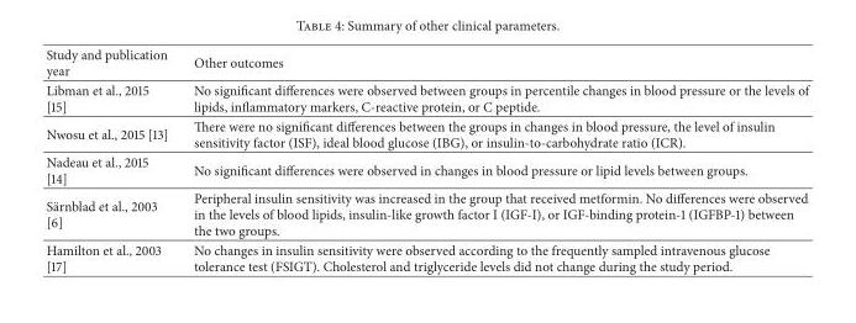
<table><thead><tr><td>Study and publication year</td><td>Other outcomes</td></tr></thead><tbody><tr><td>Libman et al., 2015 [15]</td><td>No significant differences were observed between groups in percentile changes in blood pressure or the levels of lipids, inflammatory markers, C-reactive protein, or C peptide.</td></tr><tr><td>Nwosu et al., 2015 [13]</td><td>There were no significant differences between the groups in changes in blood pressure, the level of insulin sensitivity factor (ISF), ideal blood glucose (IBG), or insulin-to-carbohydrate ratio (ICR).</td></tr><tr><td>Nadeau et al., 2015 [14]</td><td>No significant differences were observed in changes in blood pressure or lipid levels between groups.</td></tr><tr><td>S¨arnblad et al., 2003 [6]</td><td>Peripheral insulin sensitivity was increased in the group that received metformin. No differences were observed in the levels of blood lipids, insulin-like growth factor I (IGF-I), or IGF-binding protein-1 (IGFBP-1) between the two groups.</td></tr><tr><td>Hamilton et al., 2003 [17]</td><td>No changes in insulin sensitivity were observed according to the frequently sampled intravenous glucose tolerance test (FSIGT). Cholesterol and triglyceride levels did not change during the study period.</td></tr></tbody></table>